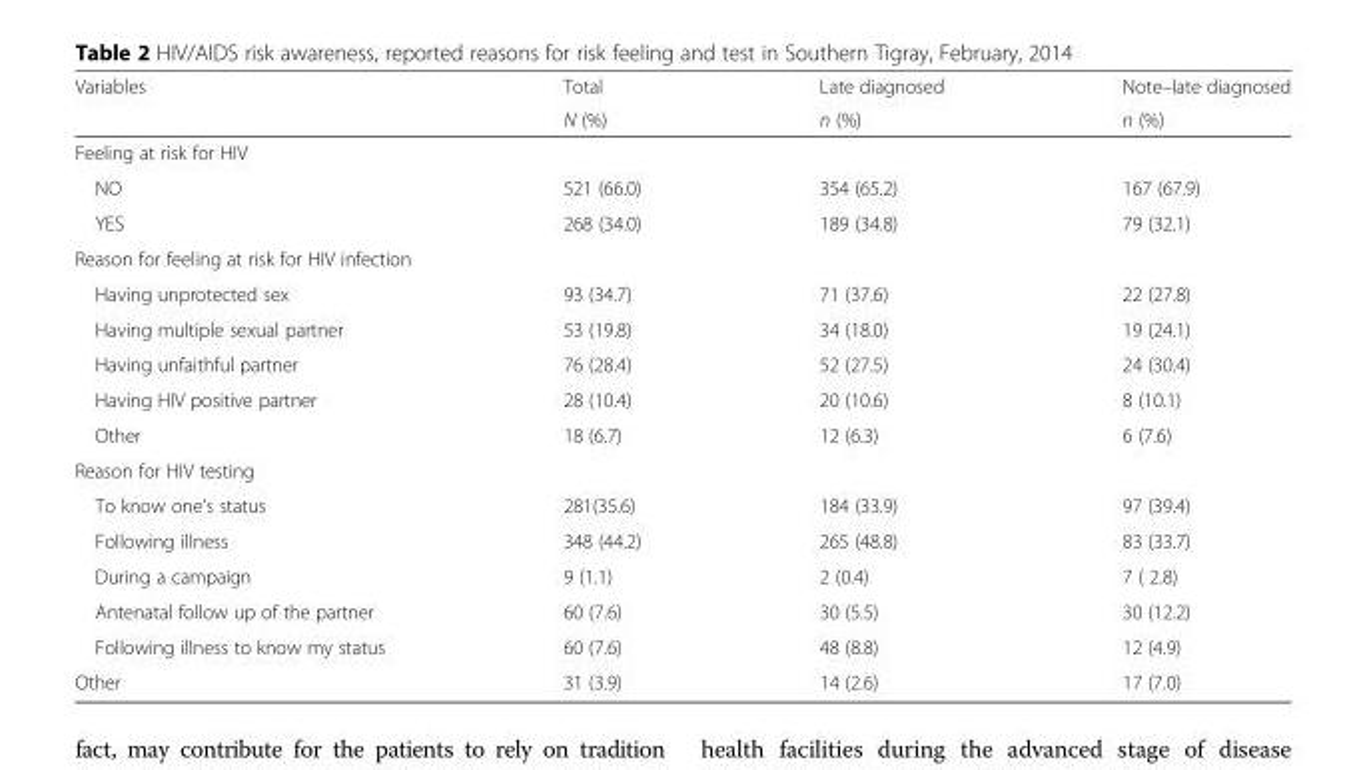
<table><thead><tr><td rowspan="2">Variables</td><td rowspan="2">Total N (%)</td><td rowspan="2">Late diagnosed n (%)</td><td rowspan="2">Note–late diagnosed n (%)</td></tr><tr></tr></thead><tbody><tr><td colspan="4">Feeling at risk for HIV</td></tr><tr><td>NO</td><td>521 (66.0)</td><td>354 (65.2)</td><td>167 (67.9)</td></tr><tr><td>YES</td><td>268 (34.0)</td><td>189 (34.8)</td><td>79 (32.1)</td></tr><tr><td colspan="4">Reason for feeling at risk for HIV infection</td></tr><tr><td>Having unprotected sex</td><td>93 (34.7)</td><td>71 (37.6)</td><td>22 (27.8)</td></tr><tr><td>Having multiple sexual partner</td><td>53 (19.8)</td><td>34 (18.0)</td><td>19 (24.1)</td></tr><tr><td>Having unfaithful partner</td><td>76 (28.4)</td><td>52 (27.5)</td><td>24 (30.4)</td></tr><tr><td>Having HIV positive partner</td><td>28 (10.4)</td><td>20 (10.6)</td><td>8 (10.1)</td></tr><tr><td>Other</td><td>18 (6.7)</td><td>12 (6.3)</td><td>6 (7.6)</td></tr><tr><td colspan="4">Reason for HIV testing</td></tr><tr><td>To know one’s status</td><td>281(35.6)</td><td>184 (33.9)</td><td>97 (39.4)</td></tr><tr><td>Following illness</td><td>348 (44.2)</td><td>265 (48.8)</td><td>83 (33.7)</td></tr><tr><td>During a campaign</td><td>9 (1.1)</td><td>2 (0.4)</td><td>7 ( 2.8)</td></tr><tr><td>Antenatal follow up of the partner</td><td>60 (7.6)</td><td>30 (5.5)</td><td>30 (12.2)</td></tr><tr><td>Following illness to know my status</td><td>60 (7.6)</td><td>48 (8.8)</td><td>12 (4.9)</td></tr><tr><td>Other</td><td>31 (3.9)</td><td>14 (2.6)</td><td>17 (7.0)</td></tr></tbody></table>